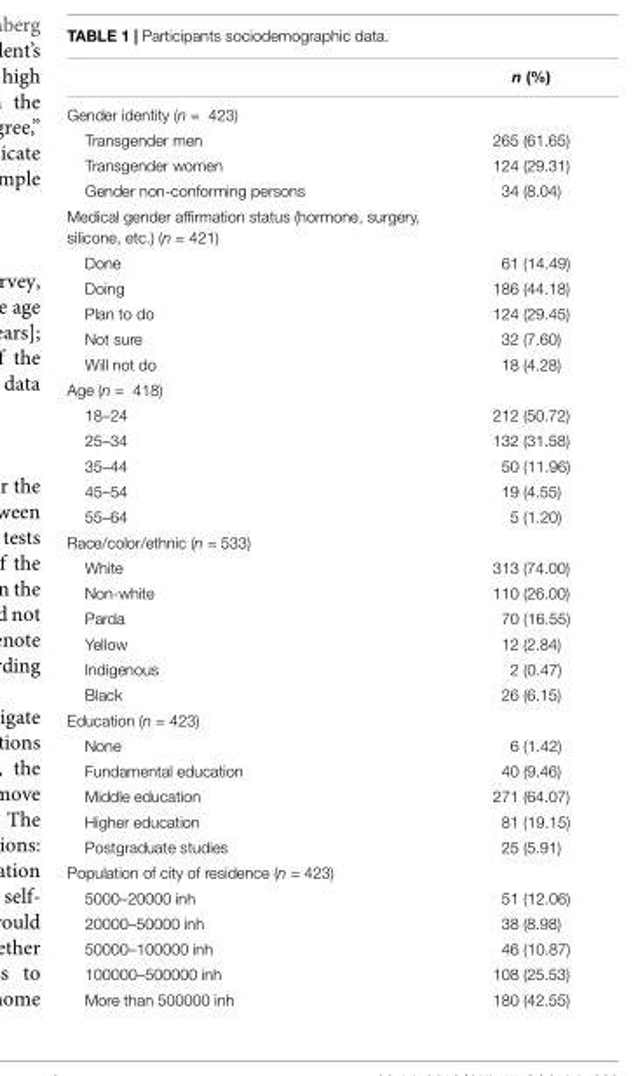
<table><thead><tr><td></td><td>n (%)</td></tr></thead><tbody><tr><td colspan="2">Gender identity (n = 423)</td></tr><tr><td>Transgender men</td><td>265 (61.65)</td></tr><tr><td>Transgender women</td><td>124 (29.31)</td></tr><tr><td>Gender non-conforming persons</td><td>34 (8.04)</td></tr><tr><td colspan="2">Medical gender affirmation status (hormone, surgery, silicone, etc.) (n = 421)</td></tr><tr><td>Done</td><td>61 (14.49)</td></tr><tr><td>Doing</td><td>186 (44.18)</td></tr><tr><td>Plan to do</td><td>124 (29.45)</td></tr><tr><td>Not sure</td><td>32 (7.60)</td></tr><tr><td>Will not do</td><td>18 (4.28)</td></tr><tr><td colspan="2">Age (n = 418)</td></tr><tr><td>18–24</td><td>212 (50.72)</td></tr><tr><td>25–34</td><td>132 (31.58)</td></tr><tr><td>35–44</td><td>50 (11.96)</td></tr><tr><td>45–54</td><td>19 (4.55)</td></tr><tr><td>55–64</td><td>5 (1.20)</td></tr><tr><td colspan="2">Race/color/ethnic (n = 533)</td></tr><tr><td>White</td><td>313 (74.00)</td></tr><tr><td>Non-white</td><td>110 (26.00)</td></tr><tr><td>Parda</td><td>70 (16.55)</td></tr><tr><td>Yellow</td><td>12 (2.84)</td></tr><tr><td>Indigenous</td><td>2 (0.47)</td></tr><tr><td>Black</td><td>26 (6.15)</td></tr><tr><td colspan="2">Education (n = 423)</td></tr><tr><td>None</td><td>6 (1.42)</td></tr><tr><td>Fundamental education</td><td>40 (9.46)</td></tr><tr><td>Middle education</td><td>271 (64.07)</td></tr><tr><td>Higher education</td><td>81 (19.15)</td></tr><tr><td>Postgraduate studies</td><td>25 (5.91)</td></tr><tr><td colspan="2">Population of city of residence (n = 423)</td></tr><tr><td>5000–20000 inh</td><td>51 (12.06)</td></tr><tr><td>20000–50000 inh</td><td>38 (8.98)</td></tr><tr><td>50000–100000 inh</td><td>46 (10.87)</td></tr><tr><td>100000–500000 inh</td><td>108 (25.53)</td></tr><tr><td>More than 500000 inh</td><td>180 (42.55)</td></tr></tbody></table>